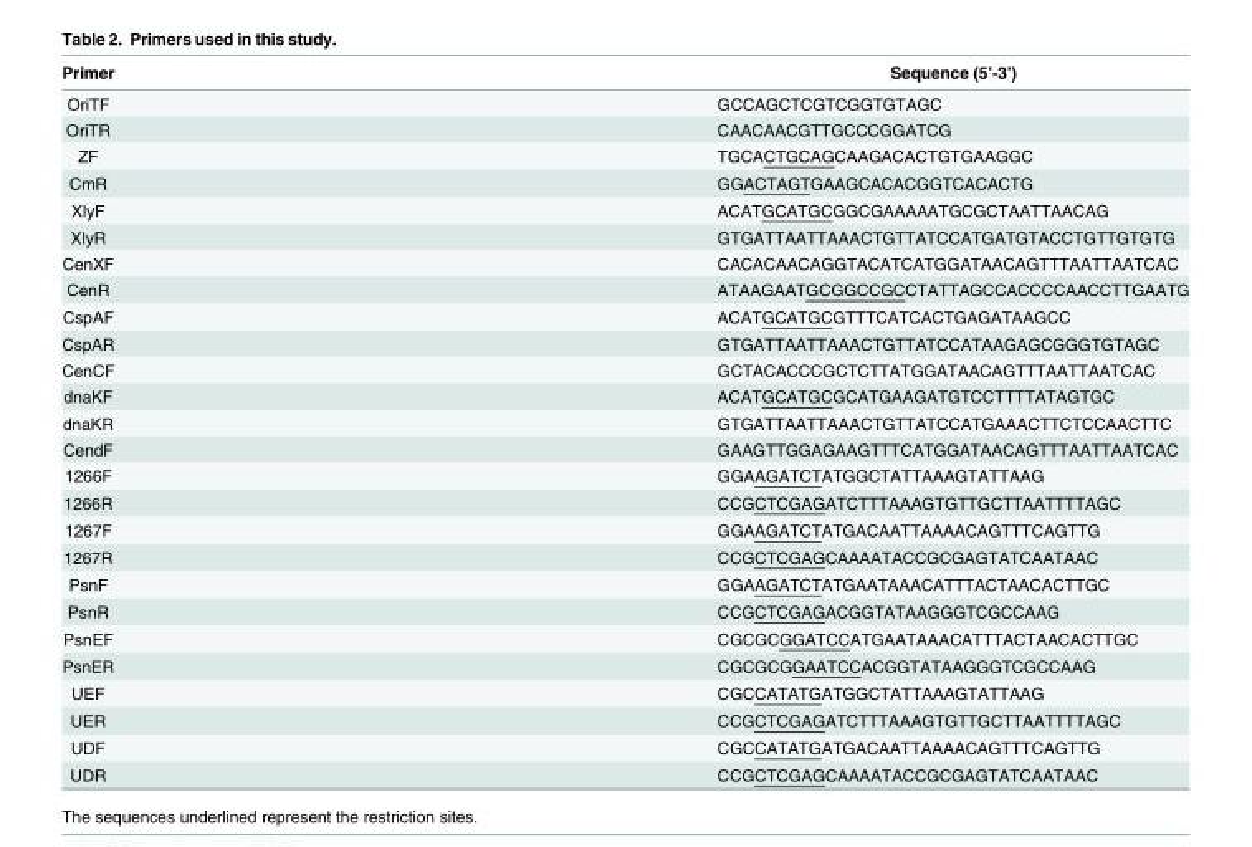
<table><thead><tr><td>Primer</td><td>Sequence (5’-3’)</td></tr></thead><tbody><tr><td>OriTF</td><td>GCCAGCTCGTCGGTGTAGC</td></tr><tr><td>OriTR</td><td>CAACAACGTTGCCCGGATCG</td></tr><tr><td>ZF</td><td>TGCACTGCAGCAAGACACTGTGAAGGC</td></tr><tr><td>CmR</td><td>GGACTAGTGAAGCACACGGTCACACTG</td></tr><tr><td>XlyF</td><td>ACATGCATGCGGCGAAAAATGCGCTAATTAACAG</td></tr><tr><td>XlyR</td><td>GTGATTAATTAAACTGTTATCCATGATGTACCTGTTGTGTG</td></tr><tr><td>CenXF</td><td>CACACAACAGGTACATCATGGATAACAGTTTAATTAATCAC</td></tr><tr><td>CenR</td><td>ATAAGAATGCGGCCGCCTATTAGCCACCCCAACCTTGAATG</td></tr><tr><td>CspAF</td><td>ACATGCATGCGTTTCATCACTGAGATAAGCC</td></tr><tr><td>CspAR</td><td>GTGATTAATTAAACTGTTATCCATAAGAGCGGGTGTAGC</td></tr><tr><td>CenCF</td><td>GCTACACCCGCTCTTATGGATAACAGTTTAATTAATCAC</td></tr><tr><td>dnaKF</td><td>ACATGCATGCGCATGAAGATGTCCTTTTATAGTGC</td></tr><tr><td>dnaKR</td><td>GTGATTAATTAAACTGTTATCCATGAAACTTCTCCAACTTC</td></tr><tr><td>CendF</td><td>GAAGTTGGAGAAGTTTCATGGATAACAGTTTAATTAATCAC</td></tr><tr><td>1266F</td><td>GGAAGATCTATGGCTATTAAAGTATTAAG</td></tr><tr><td>1266R</td><td>CCGCTCGAGATCTTTAAAGTGTTGCTTAATTTTAGC</td></tr><tr><td>1267F</td><td>GGAAGATCTATGACAATTAAAACAGTTTCAGTTG</td></tr><tr><td>1267R</td><td>CCGCTCGAGCAAAATACCGCGAGTATCAATAAC</td></tr><tr><td>PsnF</td><td>GGAAGATCTATGAATAAACATTTACTAACACTTGC</td></tr><tr><td>PsnR</td><td>CCGCTCGAGACGGTATAAGGGTCGCCAAG</td></tr><tr><td>PsnEF</td><td>CGCGCGGATCCATGAATAAACATTTACTAACACTTGC</td></tr><tr><td>PsnER</td><td>CGCGCGGAATCCACGGTATAAGGGTCGCCAAG</td></tr><tr><td>UEF</td><td>CGCCATATGATGGCTATTAAAGTATTAAG</td></tr><tr><td>UER</td><td>CCGCTCGAGATCTTTAAAGTGTTGCTTAATTTTAGC</td></tr><tr><td>UDF</td><td>CGCCATATGATGACAATTAAAACAGTTTCAGTTG</td></tr><tr><td>UDR</td><td>CCGCTCGAGCAAAATACCGCGAGTATCAATAAC</td></tr></tbody></table>